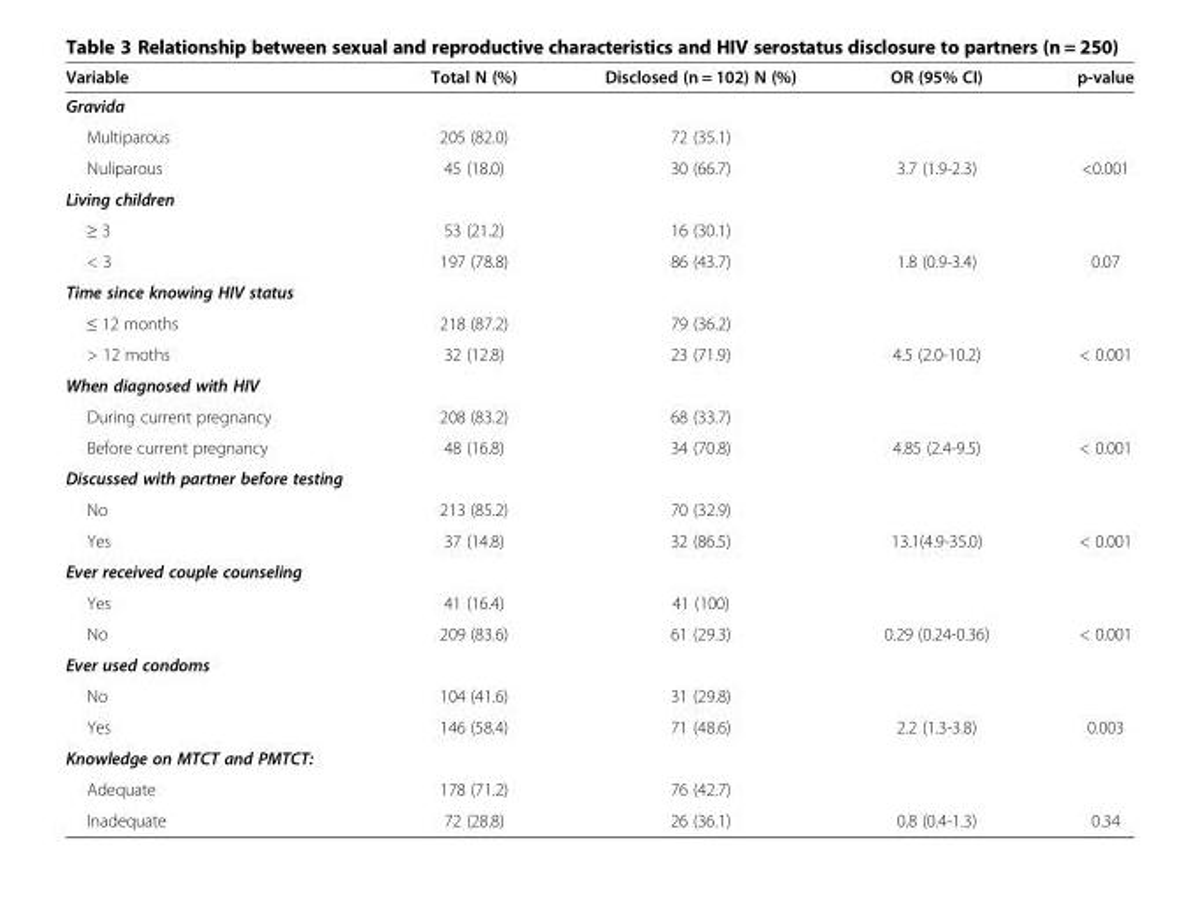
<table><thead><tr><td>Variable</td><td>Total N (%)</td><td>Disclosed (n = 102) N (%)</td><td>OR (95% CI)</td><td>p-value</td></tr></thead><tbody><tr><td colspan="5">Gravida</td></tr><tr><td>Multiparous</td><td>205 (82.0)</td><td>72 (35.1)</td><td></td><td></td></tr><tr><td>Nuliparous</td><td>45 (18.0)</td><td>30 (66.7)</td><td>3.7 (1.9-2.3)</td><td>&lt;0.001</td></tr><tr><td colspan="5">Living children</td></tr><tr><td>≥ 3</td><td>53 (21.2)</td><td>16 (30.1)</td><td></td><td></td></tr><tr><td>&lt; 3</td><td>197 (78.8)</td><td>86 (43.7)</td><td>1.8 (0.9-3.4)</td><td>0.07</td></tr><tr><td colspan="5">Time since knowing HIV status</td></tr><tr><td>≤ 12 months</td><td>218 (87.2)</td><td>79 (36.2)</td><td></td><td></td></tr><tr><td>&gt; 12 moths</td><td>32 (12.8)</td><td>23 (71.9)</td><td>4.5 (2.0-10.2)</td><td>&lt; 0.001</td></tr><tr><td colspan="5">When diagnosed with HIV</td></tr><tr><td>During current pregnancy</td><td>208 (83.2)</td><td>68 (33.7)</td><td></td><td></td></tr><tr><td>Before current pregnancy</td><td>48 (16.8)</td><td>34 (70.8)</td><td>4.85 (2.4-9.5)</td><td>&lt; 0.001</td></tr><tr><td colspan="5">Discussed with partner before testing</td></tr><tr><td>No</td><td>213 (85.2)</td><td>70 (32.9)</td><td></td><td></td></tr><tr><td>Yes</td><td>37 (14.8)</td><td>32 (86.5)</td><td>13.1(4.9-35.0)</td><td>&lt; 0.001</td></tr><tr><td colspan="5">Ever received couple counseling</td></tr><tr><td>Yes</td><td>41 (16.4)</td><td>41 (100)</td><td></td><td></td></tr><tr><td>No</td><td>209 (83.6)</td><td>61 (29.3)</td><td>0.29 (0.24-0.36)</td><td>&lt; 0.001</td></tr><tr><td colspan="5">Ever used condoms</td></tr><tr><td>No</td><td>104 (41.6)</td><td>31 (29.8)</td><td></td><td></td></tr><tr><td>Yes</td><td>146 (58.4)</td><td>71 (48.6)</td><td>2.2 (1.3-3.8)</td><td>0.003</td></tr><tr><td colspan="5">Knowledge on MTCT and PMTCT:</td></tr><tr><td>Adequate</td><td>178 (71.2)</td><td>76 (42.7)</td><td></td><td></td></tr><tr><td>Inadequate</td><td>72 (28.8)</td><td>26 (36.1)</td><td>0.8 (0.4-1.3)</td><td>0.34</td></tr></tbody></table>